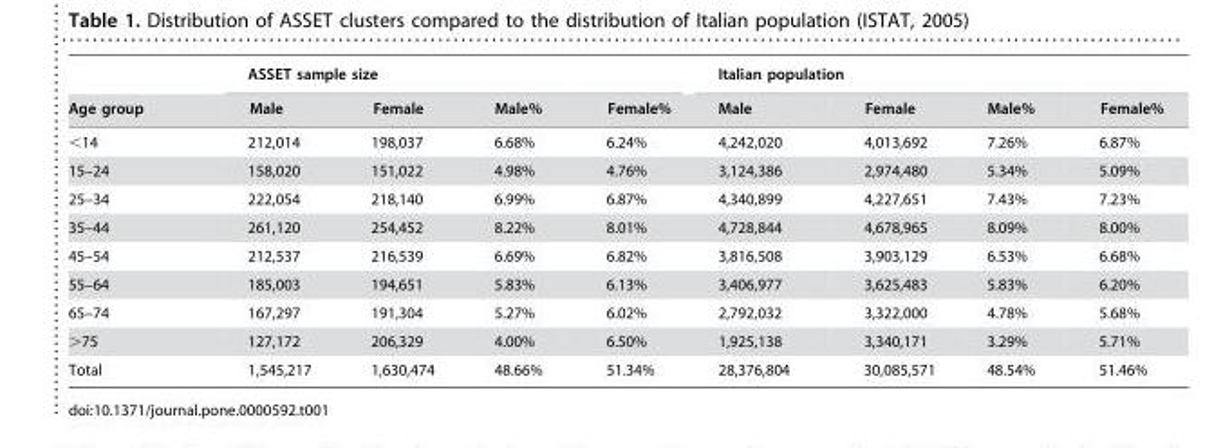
<table><thead><tr><td rowspan="2">Age group</td><td colspan="4">ASSET sample size</td><td colspan="4">Italian population</td></tr><tr><td>Male</td><td>Female</td><td>Male%</td><td>Female%</td><td>Male</td><td>Female</td><td>Male%</td><td>Female%</td></tr></thead><tbody><tr><td>&lt;14</td><td>212,014</td><td>198,037</td><td>6.68%</td><td>6.24%</td><td>4,242,020</td><td>4,013,692</td><td>7.26%</td><td>6.87%</td></tr><tr><td>15–24</td><td>158,020</td><td>151,022</td><td>4.98%</td><td>4.76%</td><td>3,124,386</td><td>2,974,480</td><td>5.34%</td><td>5.09%</td></tr><tr><td>25–34</td><td>222,054</td><td>218,140</td><td>6.99%</td><td>6.87%</td><td>4,340,899</td><td>4,227,651</td><td>7.43%</td><td>7.23%</td></tr><tr><td>35–44</td><td>261,120</td><td>254,452</td><td>8.22%</td><td>8.01%</td><td>4,728,844</td><td>4,678,965</td><td>8.09%</td><td>8.00%</td></tr><tr><td>45–54</td><td>212,537</td><td>216,539</td><td>6.69%</td><td>6.82%</td><td>3,816,508</td><td>3,903,129</td><td>6.53%</td><td>6.68%</td></tr><tr><td>55–64</td><td>185,003</td><td>194,651</td><td>5.83%</td><td>6.13%</td><td>3,406,977</td><td>3,625,483</td><td>5.83%</td><td>6.20%</td></tr><tr><td>65–74</td><td>167,297</td><td>191,304</td><td>5.27%</td><td>6.02%</td><td>2,792,032</td><td>3,322,000</td><td>4.78%</td><td>5.68%</td></tr><tr><td>&gt;75</td><td>127,172</td><td>206,329</td><td>4.00%</td><td>6.50%</td><td>1,925,138</td><td>3,340,171</td><td>3.29%</td><td>5.71%</td></tr><tr><td>Total</td><td>1,545,217</td><td>1,630,474</td><td>48.66%</td><td>51.34%</td><td>28,376,804</td><td>30,085,571</td><td>48.54%</td><td>51.46%</td></tr></tbody></table>